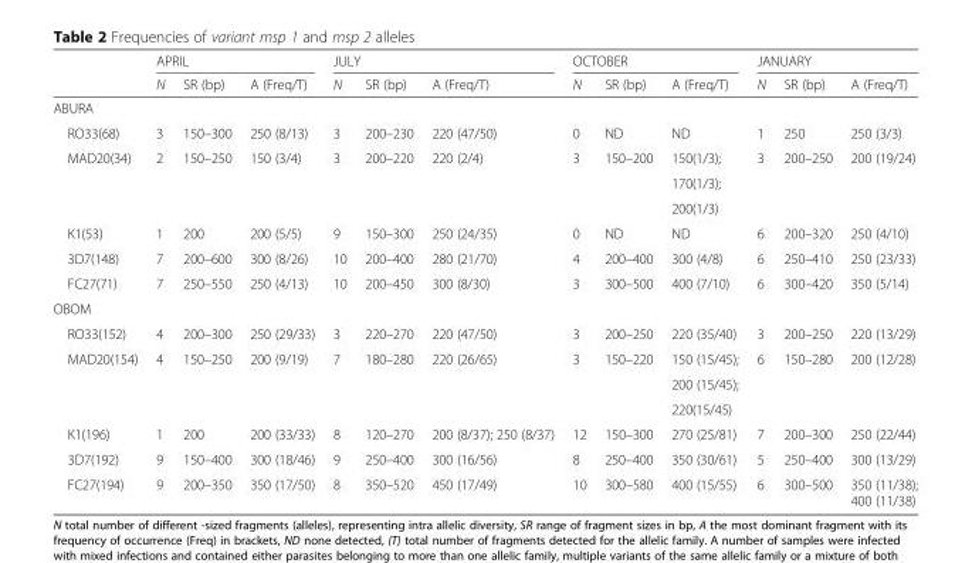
<table><thead><tr><td rowspan="2"></td><td colspan="3">APRIL</td><td colspan="3">JULY</td><td colspan="3">OCTOBER</td><td colspan="3">JANUARY</td></tr><tr><td>N</td><td>SR (bp)</td><td>A (Freq/T)</td><td>N</td><td>SR (bp)</td><td>A (Freq/T)</td><td>N</td><td>SR (bp)</td><td>A (Freq/T)</td><td>N</td><td>SR (bp)</td><td>A (Freq/T)</td></tr></thead><tbody><tr><td colspan="13">ABURA</td></tr><tr><td>RO33(68)</td><td>3</td><td>150–300</td><td>250 (8/13)</td><td>3</td><td>200–230</td><td>220 (47/50)</td><td>0</td><td>ND</td><td>ND</td><td>1</td><td>250</td><td>250 (3/3)</td></tr><tr><td rowspan="3">MAD20(34)</td><td rowspan="3">2</td><td rowspan="3">150–250</td><td rowspan="3">150 (3/4)</td><td rowspan="3">3</td><td rowspan="3">200–220</td><td rowspan="3">220 (2/4)</td><td rowspan="3">3</td><td rowspan="3">150–200</td><td>150(1/3);</td><td rowspan="3">3</td><td rowspan="3">200–250</td><td rowspan="3">200 (19/24)</td></tr><tr><td>170(1/3);</td></tr><tr><td>200(1/3)</td></tr><tr><td>K1(53)</td><td>1</td><td>200</td><td>200 (5/5)</td><td>9</td><td>150–300</td><td>250 (24/35)</td><td>0</td><td>ND</td><td>ND</td><td>6</td><td>200–320</td><td>250 (4/10)</td></tr><tr><td>3D7(148)</td><td>7</td><td>200–600</td><td>300 (8/26)</td><td>10</td><td>200–400</td><td>280 (21/70)</td><td>4</td><td>200–400</td><td>300 (4/8)</td><td>6</td><td>250–410</td><td>250 (23/33)</td></tr><tr><td>FC27(71)</td><td>7</td><td>250–550</td><td>250 (4/13)</td><td>10</td><td>200–450</td><td>300 (8/30)</td><td>3</td><td>300–500</td><td>400 (7/10)</td><td>6</td><td>300–420</td><td>350 (5/14)</td></tr><tr><td colspan="13">OBOM</td></tr><tr><td>RO33(152)</td><td>4</td><td>200–300</td><td>250 (29/33)</td><td>3</td><td>220–270</td><td>220 (47/50)</td><td>3</td><td>200–250</td><td>220 (35/40)</td><td>3</td><td>200–250</td><td>220 (13/29)</td></tr><tr><td rowspan="3">MAD20(154)</td><td rowspan="3">4</td><td rowspan="3">150–250</td><td rowspan="3">200 (9/19)</td><td rowspan="3">7</td><td rowspan="3">180–280</td><td rowspan="3">220 (26/65)</td><td rowspan="3">3</td><td rowspan="3">150–220</td><td>150 (15/45);</td><td rowspan="3">6</td><td rowspan="3">150–280</td><td rowspan="3">200 (12/28)</td></tr><tr><td>200 (15/45);</td></tr><tr><td>220(15/45)</td></tr><tr><td>K1(196)</td><td>1</td><td>200</td><td>200 (33/33)</td><td>8</td><td>120–270</td><td>200 (8/37); 250 (8/37)</td><td>12</td><td>150–300</td><td>270 (25/81)</td><td>7</td><td>200–300</td><td>250 (22/44)</td></tr><tr><td>3D7(192)</td><td>9</td><td>150–400</td><td>300 (18/46)</td><td>9</td><td>250–400</td><td>300 (16/56)</td><td>8</td><td>250–400</td><td>350 (30/61)</td><td>5</td><td>250–400</td><td>300 (13/29)</td></tr><tr><td>FC27(194)</td><td>9</td><td>200–350</td><td>350 (17/50)</td><td>8</td><td>350–520</td><td>450 (17/49)</td><td>10</td><td>300–580</td><td>400 (15/55)</td><td>6</td><td>300–500</td><td>350 (11/38); 400 (11/38)</td></tr></tbody></table>